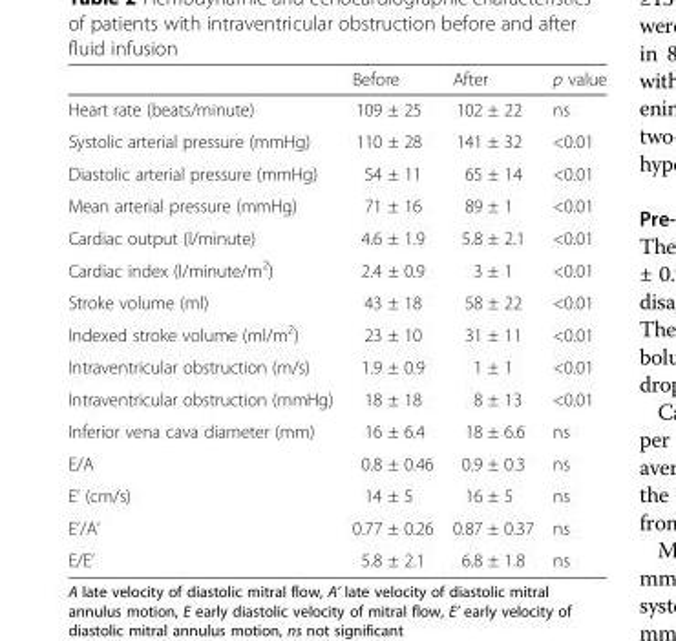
<table><thead><tr><td></td><td>Before</td><td>After</td><td>p value</td></tr></thead><tbody><tr><td>Heart rate (beats/minute)</td><td>109 ± 25</td><td>102 ± 22</td><td>ns</td></tr><tr><td>Systolic arterial pressure (mmHg)</td><td>110 ± 28</td><td>141 ± 32</td><td>&lt;0.01</td></tr><tr><td>Diastolic arterial pressure (mmHg)</td><td>54 ± 11</td><td>65 ± 14</td><td>&lt;0.01</td></tr><tr><td>Mean arterial pressure (mmHg)</td><td>71 ± 16</td><td>89 ± 1</td><td>&lt;0.01</td></tr><tr><td>Cardiac output (l/minute)</td><td>4.6 ± 1.9</td><td>5.8 ± 2.1</td><td>&lt;0.01</td></tr><tr><td>Cardiac index (l/minute/m<sup>2</sup>)</td><td>2.4 ± 0.9</td><td>3 ± 1</td><td>&lt;0.01</td></tr><tr><td>Stroke volume (ml)</td><td>43 ± 18</td><td>58 ± 22</td><td>&lt;0.01</td></tr><tr><td>Indexed stroke volume (ml/m<sup>2</sup>)</td><td>23 ± 10</td><td>31 ± 11</td><td>&lt;0.01</td></tr><tr><td>Intraventricular obstruction (m/s)</td><td>1.9 ± 0.9</td><td>1 ± 1</td><td>&lt;0.01</td></tr><tr><td>Intraventricular obstruction (mmHg)</td><td>18 ± 18</td><td>8 ± 13</td><td>&lt;0.01</td></tr><tr><td>Inferior vena cava diameter (mm)</td><td>16 ± 6.4</td><td>18 ± 6.6</td><td>ns</td></tr><tr><td>E/A</td><td>0.8 ± 0.46</td><td>0.9 ± 0.3</td><td>ns</td></tr><tr><td>E’ (cm/s)</td><td>14 ± 5</td><td>16 ± 5</td><td>ns</td></tr><tr><td>E’/A’</td><td>0.77 ± 0.26</td><td>0.87 ± 0.37</td><td>ns</td></tr><tr><td>E/E’</td><td>5.8 ± 2.1</td><td>6.8 ± 1.8</td><td>ns</td></tr></tbody></table>